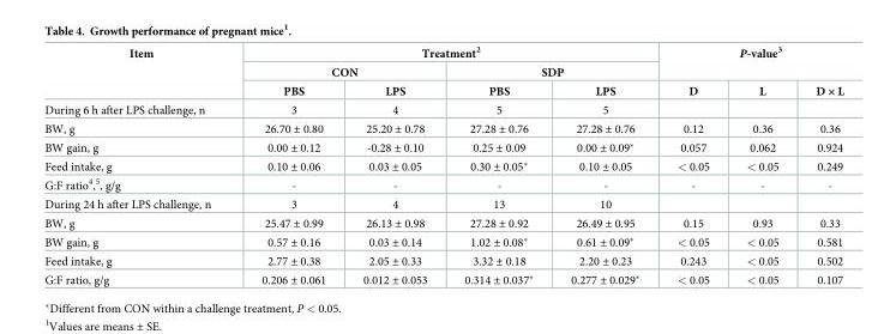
<table><thead><tr><td rowspan="3">Item</td><td colspan="4">Treatment<sup>2</sup></td><td rowspan="2" colspan="3">P-value<sup>3</sup></td></tr><tr><td colspan="2">CON</td><td colspan="2">SDP</td></tr><tr><td>PBS</td><td>LPS</td><td>PBS</td><td>LPS</td><td>D</td><td>L</td><td>D × L</td></tr></thead><tbody><tr><td>During 6 h after LPS challenge, n</td><td>3</td><td>4</td><td>5</td><td>5</td><td></td><td></td><td></td></tr><tr><td>BW, g</td><td>26.70 ± 0.80</td><td>25.20 ± 0.78</td><td>27.28 ± 0.76</td><td>27.28 ± 0.76</td><td>0.12</td><td>0.36</td><td>0.36</td></tr><tr><td>BW gain, g</td><td>0.00 ± 0.12</td><td>-0.28 ± 0.10</td><td>0.25 ± 0.09</td><td>0.00 ± 0.09*</td><td>0.057</td><td>0.062</td><td>0.924</td></tr><tr><td>Feed intake, g</td><td>0.10 ± 0.06</td><td>0.03 ± 0.05</td><td>0.30 ± 0.05*</td><td>0.10 ± 0.05</td><td>&lt; 0.05</td><td>&lt; 0.05</td><td>0.249</td></tr><tr><td>G:F ratio<sup>4</sup>,<sup>5</sup>, g/g</td><td>-</td><td>-</td><td>-</td><td>-</td><td>-</td><td>-</td><td>-</td></tr><tr><td>During 24 h after LPS challenge, n</td><td>3</td><td>4</td><td>13</td><td>10</td><td></td><td></td><td></td></tr><tr><td>BW, g</td><td>25.47 ± 0.99</td><td>26.13 ± 0.98</td><td>27.28 ± 0.92</td><td>26.49 ± 0.95</td><td>0.15</td><td>0.93</td><td>0.33</td></tr><tr><td>BW gain, g</td><td>0.57 ± 0.16</td><td>0.03 ± 0.14</td><td>1.02 ± 0.08*</td><td>0.61 ± 0.09*</td><td>&lt; 0.05</td><td>&lt; 0.05</td><td>0.581</td></tr><tr><td>Feed intake, g</td><td>2.77 ± 0.38</td><td>2.05 ± 0.33</td><td>3.32 ± 0.18</td><td>2.20 ± 0.23</td><td>0.243</td><td>&lt; 0.05</td><td>0.502</td></tr><tr><td>G:F ratio, g/g</td><td>0.206 ± 0.061</td><td>0.012 ± 0.053</td><td>0.314 ± 0.037*</td><td>0.277 ± 0.029*</td><td>&lt; 0.05</td><td>&lt; 0.05</td><td>0.107</td></tr></tbody></table>